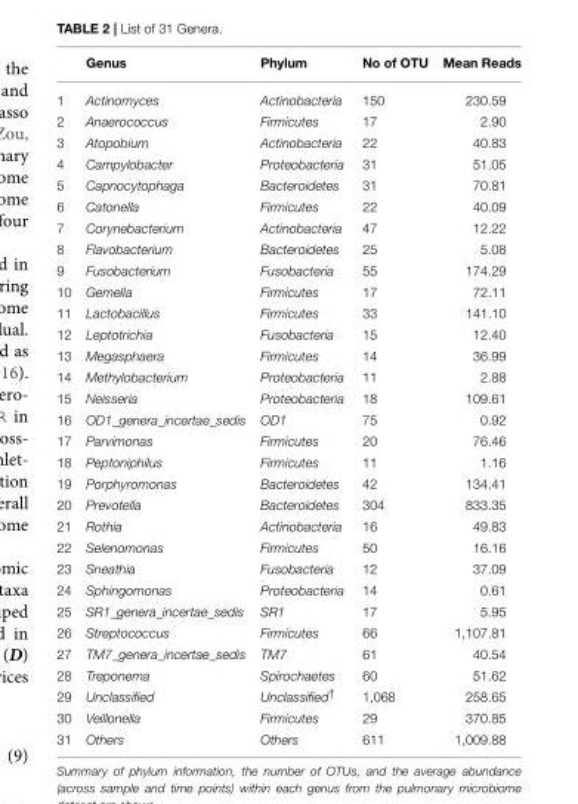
<table><thead><tr><td></td><td>Genus</td><td>Phylum</td><td>No of OTU</td><td>Mean Reads</td></tr></thead><tbody><tr><td>1</td><td>Actinomyces</td><td>Actinobacteria</td><td>150</td><td>230.59</td></tr><tr><td>2</td><td>Anaerococcus</td><td>Firmicutes</td><td>17</td><td>2.90</td></tr><tr><td>3</td><td>Atopobium</td><td>Actinobacteria</td><td>22</td><td>40.83</td></tr><tr><td>4</td><td>Campylobacter</td><td>Proteobacteria</td><td>31</td><td>51.05</td></tr><tr><td>5</td><td>Capnocytophaga</td><td>Bacteroidetes</td><td>31</td><td>70.81</td></tr><tr><td>6</td><td>Catonella</td><td>Firmicutes</td><td>22</td><td>40.09</td></tr><tr><td>7</td><td>Corynebacterium</td><td>Actinobacteria</td><td>47</td><td>12.22</td></tr><tr><td>8</td><td>Flavobacterium</td><td>Bacteroidetes</td><td>25</td><td>5.08</td></tr><tr><td>9</td><td>Fusobacterium</td><td>Fusobacteria</td><td>55</td><td>174.29</td></tr><tr><td>10</td><td>Gemella</td><td>Firmicutes</td><td>17</td><td>72.11</td></tr><tr><td>11</td><td>Lactobacillus</td><td>Firmicutes</td><td>33</td><td>141.10</td></tr><tr><td>12</td><td>Leptotrichia</td><td>Fusobacteria</td><td>15</td><td>12.40</td></tr><tr><td>13</td><td>Megasphaera</td><td>Firmicutes</td><td>14</td><td>36.99</td></tr><tr><td>14</td><td>Methylobacterium</td><td>Proteobacteria</td><td>11</td><td>2.88</td></tr><tr><td>15</td><td>Neisseria</td><td>Proteobacteria</td><td>18</td><td>109.61</td></tr><tr><td>16</td><td>OD1_genera_incertae_sedis</td><td>OD1</td><td>75</td><td>0.92</td></tr><tr><td>17</td><td>Parvimonas</td><td>Firmicutes</td><td>20</td><td>76.46</td></tr><tr><td>18</td><td>Peptoniphilus</td><td>Firmicutes</td><td>11</td><td>1.16</td></tr><tr><td>19</td><td>Porphyromonas</td><td>Bacteroidetes</td><td>42</td><td>134.41</td></tr><tr><td>20</td><td>Prevotella</td><td>Bacteroidetes</td><td>304</td><td>833.35</td></tr><tr><td>21</td><td>Rothia</td><td>Actinobacteria</td><td>16</td><td>49.83</td></tr><tr><td>22</td><td>Selenomonas</td><td>Firmicutes</td><td>50</td><td>16.16</td></tr><tr><td>23</td><td>Sneathia</td><td>Fusobacteria</td><td>12</td><td>37.09</td></tr><tr><td>24</td><td>Sphingomonas</td><td>Proteobacteria</td><td>14</td><td>0.61</td></tr><tr><td>25</td><td>SR1_genera_incertae_sedis</td><td>SR1</td><td>17</td><td>5.95</td></tr><tr><td>26</td><td>Streptococcus</td><td>Firmicutes</td><td>66</td><td>1,107.81</td></tr><tr><td>27</td><td>TM7_genera_incertae_sedis</td><td>TM7</td><td>61</td><td>40.54</td></tr><tr><td>28</td><td>Treponema</td><td>Spirochaetes</td><td>60</td><td>51.62</td></tr><tr><td>29</td><td>Unclassified</td><td>Unclassified<sup>†</sup></td><td>1,068</td><td>258.65</td></tr><tr><td>30</td><td>Veillonella</td><td>Firmicutes</td><td>29</td><td>370.85</td></tr><tr><td>31</td><td>Others</td><td>Others</td><td>611</td><td>1,009.88</td></tr></tbody></table>